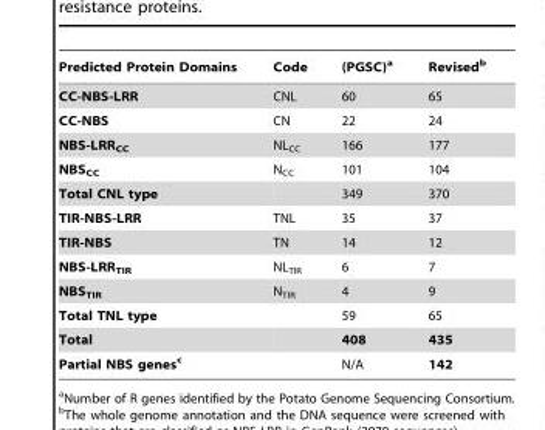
<table><thead><tr><td>Predicted Protein Domains</td><td>Code</td><td>(PGSC)<sup>a</sup></td><td>Revised<sup>b</sup></td></tr></thead><tbody><tr><td>CC-NBS-LRR</td><td>CNL</td><td>60</td><td>65</td></tr><tr><td>CC-NBS</td><td>CN</td><td>22</td><td>24</td></tr><tr><td>NBS-LRR<sub>CC</sub></td><td>NL<sub>CC</sub></td><td>166</td><td>177</td></tr><tr><td>NBS<sub>CC</sub></td><td>N<sub>CC</sub></td><td>101</td><td>104</td></tr><tr><td>Total CNL type</td><td></td><td>349</td><td>370</td></tr><tr><td>TIR-NBS-LRR</td><td>TNL</td><td>35</td><td>37</td></tr><tr><td>TIR-NBS</td><td>TN</td><td>14</td><td>12</td></tr><tr><td>NBS-LRR<sub>TIR</sub></td><td>NL<sub>TIR</sub></td><td>6</td><td>7</td></tr><tr><td>NBS<sub>TIR</sub></td><td>N<sub>TIR</sub></td><td>4</td><td>9</td></tr><tr><td>Total TNL type</td><td></td><td>59</td><td>65</td></tr><tr><td>Total</td><td></td><td>408</td><td>435</td></tr><tr><td>Partial NBS genesc</td><td></td><td>N/A</td><td>142</td></tr></tbody></table>